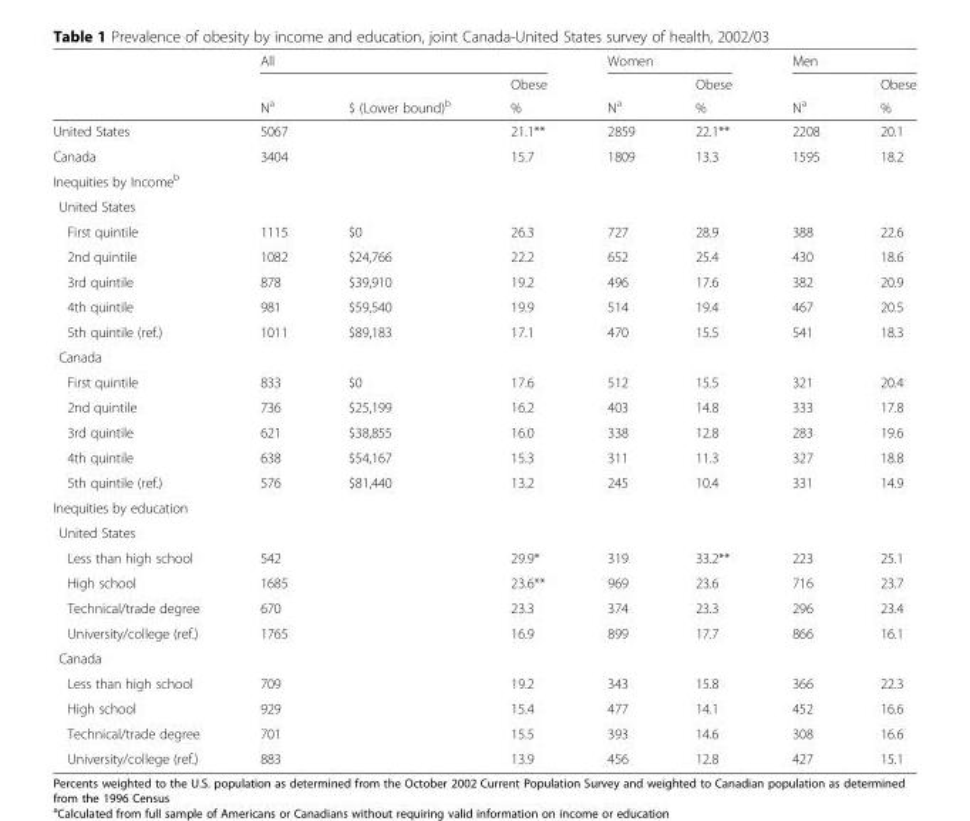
<table><thead><tr><td rowspan="3"></td><td colspan="3">All</td><td colspan="2">Women</td><td colspan="2">Men</td></tr><tr><td rowspan="2">N<sup>a</sup></td><td rowspan="2">$ (Lower bound)<sup>b</sup></td><td rowspan="2">Obese %</td><td rowspan="2">N<sup>a</sup></td><td rowspan="2">Obese %</td><td rowspan="2">N<sup>a</sup></td><td rowspan="2">Obese %</td></tr><tr></tr></thead><tbody><tr><td>United States</td><td>5067</td><td></td><td>21.1**</td><td>2859</td><td>22.1**</td><td>2208</td><td>20.1</td></tr><tr><td>Canada</td><td>3404</td><td></td><td>15.7</td><td>1809</td><td>13.3</td><td>1595</td><td>18.2</td></tr><tr><td colspan="8">Inequities by Income<sup>b</sup></td></tr><tr><td colspan="8">United States</td></tr><tr><td>First quintile</td><td>1115</td><td>$0</td><td>26.3</td><td>727</td><td>28.9</td><td>388</td><td>22.6</td></tr><tr><td>2nd quintile</td><td>1082</td><td>$24,766</td><td>22.2</td><td>652</td><td>25.4</td><td>430</td><td>18.6</td></tr><tr><td>3rd quintile</td><td>878</td><td>$39,910</td><td>19.2</td><td>496</td><td>17.6</td><td>382</td><td>20.9</td></tr><tr><td>4th quintile</td><td>981</td><td>$59,540</td><td>19.9</td><td>514</td><td>19.4</td><td>467</td><td>20.5</td></tr><tr><td>5th quintile (ref.)</td><td>1011</td><td>$89,183</td><td>17.1</td><td>470</td><td>15.5</td><td>541</td><td>18.3</td></tr><tr><td colspan="8">Canada</td></tr><tr><td>First quintile</td><td>833</td><td>$0</td><td>17.6</td><td>512</td><td>15.5</td><td>321</td><td>20.4</td></tr><tr><td>2nd quintile</td><td>736</td><td>$25,199</td><td>16.2</td><td>403</td><td>14.8</td><td>333</td><td>17.8</td></tr><tr><td>3rd quintile</td><td>621</td><td>$38,855</td><td>16.0</td><td>338</td><td>12.8</td><td>283</td><td>19.6</td></tr><tr><td>4th quintile</td><td>638</td><td>$54,167</td><td>15.3</td><td>311</td><td>11.3</td><td>327</td><td>18.8</td></tr><tr><td>5th quintile (ref.)</td><td>576</td><td>$81,440</td><td>13.2</td><td>245</td><td>10.4</td><td>331</td><td>14.9</td></tr><tr><td colspan="8">Inequities by education</td></tr><tr><td colspan="8">United States</td></tr><tr><td>Less than high school</td><td>542</td><td></td><td>29.9*</td><td>319</td><td>33.2**</td><td>223</td><td>25.1</td></tr><tr><td>High school</td><td>1685</td><td></td><td>23.6**</td><td>969</td><td>23.6</td><td>716</td><td>23.7</td></tr><tr><td>Technical/trade degree</td><td>670</td><td></td><td>23.3</td><td>374</td><td>23.3</td><td>296</td><td>23.4</td></tr><tr><td>University/college (ref.)</td><td>1765</td><td></td><td>16.9</td><td>899</td><td>17.7</td><td>866</td><td>16.1</td></tr><tr><td colspan="8">Canada</td></tr><tr><td>Less than high school</td><td>709</td><td></td><td>19.2</td><td>343</td><td>15.8</td><td>366</td><td>22.3</td></tr><tr><td>High school</td><td>929</td><td></td><td>15.4</td><td>477</td><td>14.1</td><td>452</td><td>16.6</td></tr><tr><td>Technical/trade degree</td><td>701</td><td></td><td>15.5</td><td>393</td><td>14.6</td><td>308</td><td>16.6</td></tr><tr><td>University/college (ref.)</td><td>883</td><td></td><td>13.9</td><td>456</td><td>12.8</td><td>427</td><td>15.1</td></tr></tbody></table>